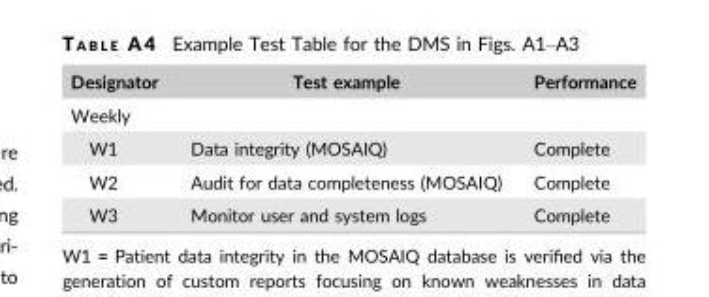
<table><thead><tr><td>Designator</td><td>Test example</td><td>Performance</td></tr></thead><tbody><tr><td colspan="3">Weekly</td></tr><tr><td>W1</td><td>Data integrity (MOSAIQ)</td><td>Complete</td></tr><tr><td>W2</td><td>Audit for data completeness (MOSAIQ)</td><td>Complete</td></tr><tr><td>W3</td><td>Monitor user and system logs</td><td>Complete</td></tr></tbody></table>